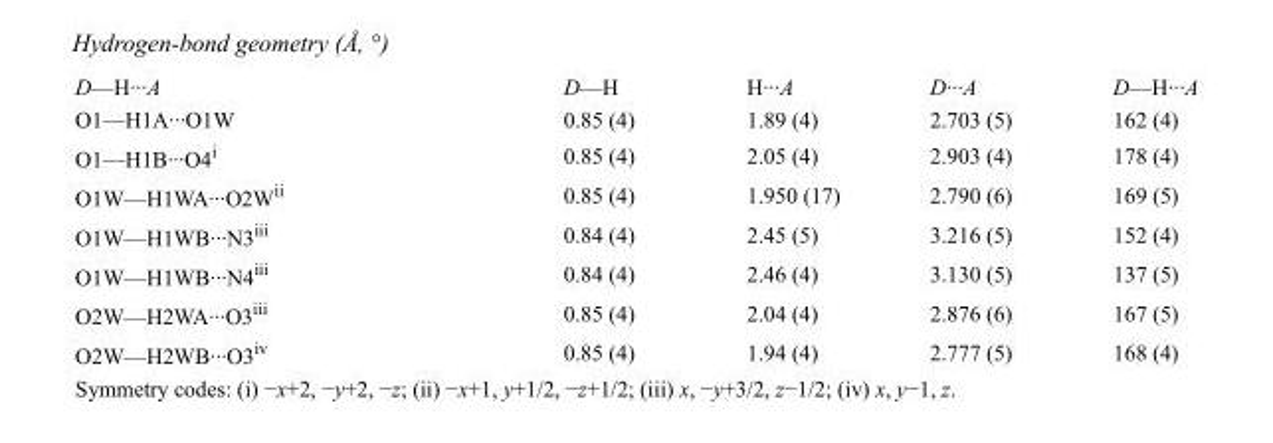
<table><tbody><tr><td>D—H···A</td><td>D—H</td><td>H···A</td><td>D···A</td><td>D—H···A</td></tr><tr><td>O1—H1A···O1W</td><td>0.85 (4)</td><td>1.89 (4)</td><td>2.703 (5)</td><td>162 (4)</td></tr><tr><td>O1—H1B···O4<sup>i</sup></td><td>0.85 (4)</td><td>2.05 (4)</td><td>2.903 (4)</td><td>178 (4)</td></tr><tr><td>O1W—H1WA···O2W<sup>ii</sup></td><td>0.85 (4)</td><td>1.950 (17)</td><td>2.790 (6)</td><td>169 (5)</td></tr><tr><td>O1W—H1WB···N3<sup>iii</sup></td><td>0.84 (4)</td><td>2.45 (5)</td><td>3.216 (5)</td><td>152 (4)</td></tr><tr><td>O1W—H1WB···N4<sup>iii</sup></td><td>0.84 (4)</td><td>2.46 (4)</td><td>3.130 (5)</td><td>137 (5)</td></tr><tr><td>O2W—H2WA···O3<sup>iii</sup></td><td>0.85 (4)</td><td>2.04 (4)</td><td>2.876 (6)</td><td>167 (5)</td></tr><tr><td>O2W—H2WB···O3<sup>iv</sup></td><td>0.85 (4)</td><td>1.94 (4)</td><td>2.777 (5)</td><td>168 (4)</td></tr></tbody></table>